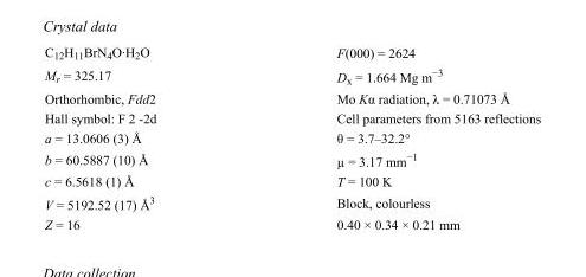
<table><tbody><tr><td>C<sub>12</sub>H<sub>11</sub>BrN<sub>4</sub>O·H<sub>2</sub>O</td><td>F(000) = 2624</td></tr><tr><td>M<sub>r</sub> = 325.17</td><td>D<sub>x</sub> = 1.664 Mg m<sup>−3</sup></td></tr><tr><td>Orthorhombic, Fdd2</td><td>Mo Kα radiation, λ = 0.71073 Å</td></tr><tr><td>Hall symbol: F 2 -2d</td><td>Cell parameters from 5163 reflections</td></tr><tr><td>a = 13.0606 (3) Å</td><td>θ = 3.7–32.2°</td></tr><tr><td>b = 60.5887 (10) Å</td><td>µ = 3.17 mm<sup>−1</sup></td></tr><tr><td>c = 6.5618 (1) Å</td><td>T = 100 K</td></tr><tr><td>V = 5192.52 (17) Å<sup>3</sup></td><td>Block, colourless</td></tr><tr><td>Z = 16</td><td>0.40 × 0.34 × 0.21 mm</td></tr></tbody></table>